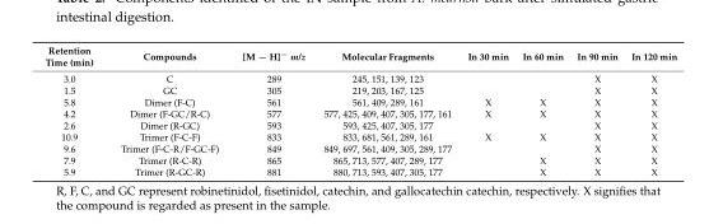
<table><thead><tr><td>Retention Time (min)</td><td>Compounds</td><td>[M − H]<sup>−</sup> m/z</td><td>Molecular Fragments</td><td>In 30 min</td><td>In 60 min</td><td>In 90 min</td><td>In 120 min</td></tr></thead><tbody><tr><td>3.0</td><td>C</td><td>289</td><td>245, 151, 139, 123</td><td></td><td></td><td>X</td><td>X</td></tr><tr><td>1.5</td><td>GC</td><td>305</td><td>219, 203, 167, 125</td><td></td><td></td><td>X</td><td>X</td></tr><tr><td>5.8</td><td>Dimer (F-C)</td><td>561</td><td>561, 409, 289, 161</td><td>X</td><td>X</td><td>X</td><td>X</td></tr><tr><td>4.2</td><td>Dimer (F-GC/R-C)</td><td>577</td><td>577, 425, 409, 407, 305, 177, 161</td><td>X</td><td>X</td><td>X</td><td>X</td></tr><tr><td>2.6</td><td>Dimer (R-GC)</td><td>593</td><td>593, 425, 407, 305, 177</td><td></td><td></td><td>X</td><td>X</td></tr><tr><td>10.9</td><td>Trimer (F-C-F)</td><td>833</td><td>833, 681, 561, 289, 161</td><td>X</td><td>X</td><td>X</td><td>X</td></tr><tr><td>9.6</td><td>Trimer (F-C-R/F-GC-F)</td><td>849</td><td>849, 697, 561, 409, 305, 289, 177</td><td></td><td></td><td>X</td><td>X</td></tr><tr><td>7.9</td><td>Trimer (R-C-R)</td><td>865</td><td>865, 713, 577, 407, 289, 177</td><td></td><td>X</td><td>X</td><td>X</td></tr><tr><td>5.9</td><td>Trimer (R-GC-R)</td><td>881</td><td>880, 713, 593, 407, 305, 177</td><td></td><td>X</td><td>X</td><td>X</td></tr></tbody></table>